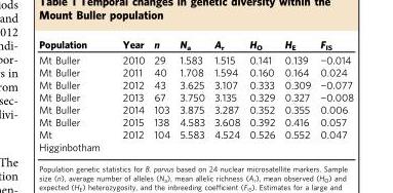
<table><thead><tr><td>Population</td><td>Year</td><td>n</td><td>N<sub>a</sub></td><td>A<sub>r</sub></td><td>H<sub>O</sub></td><td>H<sub>E</sub></td><td>F<sub>IS</sub></td></tr></thead><tbody><tr><td>Mt Buller</td><td>2010</td><td>29</td><td>1.583</td><td>1.515</td><td>0.141</td><td>0.139</td><td>−0.014</td></tr><tr><td>Mt Buller</td><td>2011</td><td>40</td><td>1.708</td><td>1.594</td><td>0.160</td><td>0.164</td><td>0.024</td></tr><tr><td>Mt Buller</td><td>2012</td><td>43</td><td>3.625</td><td>3.107</td><td>0.333</td><td>0.309</td><td>−0.077</td></tr><tr><td>Mt Buller</td><td>2013</td><td>67</td><td>3.750</td><td>3.135</td><td>0.329</td><td>0.327</td><td>−0.008</td></tr><tr><td>Mt Buller</td><td>2014</td><td>103</td><td>3.875</td><td>3.287</td><td>0.352</td><td>0.355</td><td>0.006</td></tr><tr><td>Mt Buller</td><td>2015</td><td>138</td><td>4.583</td><td>3.608</td><td>0.392</td><td>0.416</td><td>0.057</td></tr><tr><td>Mt Higginbotham</td><td>2012</td><td>104</td><td>5.583</td><td>4.524</td><td>0.526</td><td>0.552</td><td>0.047</td></tr></tbody></table>